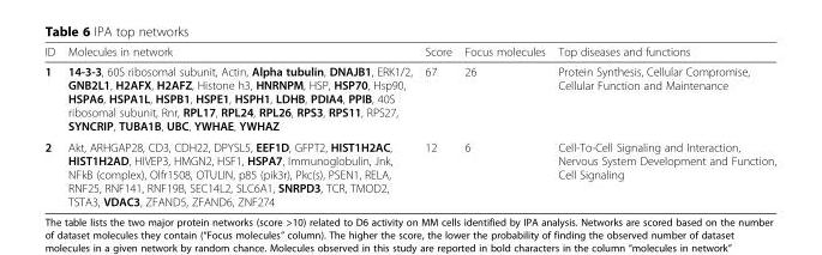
<table><thead><tr><td>ID</td><td>Molecules in network</td><td>Score</td><td>Focus molecules</td><td>Top diseases and functions</td></tr></thead><tbody><tr><td>1</td><td>14-3-3, 60S ribosomal subunit, Actin, Alpha tubulin, DNAJB1, ERK1/2, GNB2L1, H2AFX, H2AFZ, Histone h3, HNRNPM, HSP, HSP70, Hsp90, HSPA6, HSPA1L, HSPB1, HSPE1, HSPH1, LDHB, PDIA4, PPIB, 40S ribosomal subunit, Rnr, RPL17, RPL24, RPL26, RPS3, RPS11, RPS27, SYNCRIP, TUBA1B, UBC, YWHAE, YWHAZ</td><td>67</td><td>26</td><td>Protein Synthesis, Cellular Compromise, Cellular Function and Maintenance</td></tr><tr><td>2</td><td>Akt, ARHGAP28, CD3, CDH22, DPYSL5, EEF1D, GFPT2, HIST1H2AC, HIST1H2AD, HIVEP3, HMGN2, HSF1, HSPA7, Immunoglobulin, Jnk, NFkB (complex), Olfr1508, OTULIN, p85 (pik3r), Pkc(s), PSEN1, RELA, RNF25, RNF141, RNF19B, SEC14L2, SLC6A1, SNRPD3, TCR, TMOD2, TSTA3, VDAC3, ZFAND5, ZFAND6, ZNF274</td><td>12</td><td>6</td><td>Cell-To-Cell Signaling and Interaction, Nervous System Development and Function, Cell Signaling</td></tr></tbody></table>